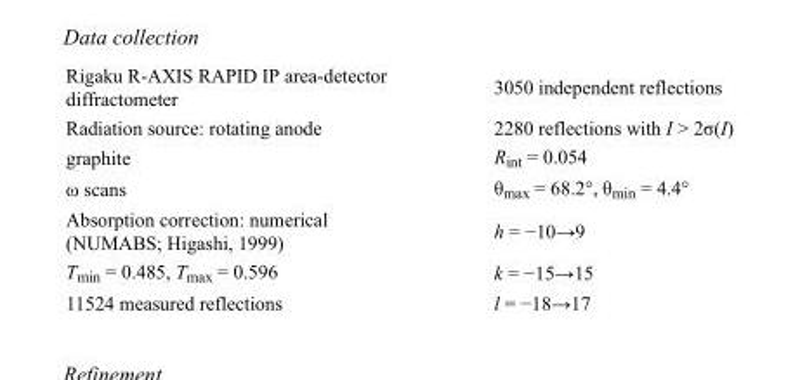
<table><tbody><tr><td>Rigaku R-AXIS RAPID IP area-detector diffractometer</td><td>3050 independent reflections</td></tr><tr><td>Radiation source: rotating anode</td><td>2280 reflections with I &gt; 2σ(I)</td></tr><tr><td>graphite</td><td>R<sub>int</sub> = 0.054</td></tr><tr><td>ω scans</td><td>θ<sub>max</sub> = 68.2°, θ<sub>min</sub> = 4.4°</td></tr><tr><td>Absorption correction: numerical (NUMABS; Higashi, 1999)</td><td>h = −10→9</td></tr><tr><td>T<sub>min</sub> = 0.485, T<sub>max</sub> = 0.596</td><td>k = −15→15</td></tr><tr><td>11524 measured reflections</td><td>l = −18→17</td></tr></tbody></table>